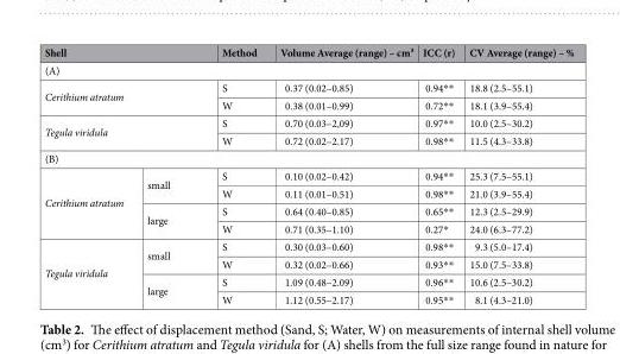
<table><thead><tr><td colspan="2">Shell</td><td>Method</td><td>Volume Average (range) – cm³</td><td>ICC (r)</td><td>CV Average (range) – %</td></tr></thead><tbody><tr><td colspan="6">(A)</td></tr><tr><td rowspan="2" colspan="2">Cerithium atratum</td><td>S</td><td>0.37 (0.02–0.85)</td><td>0.94**</td><td>18.8 (2.5–55.1)</td></tr><tr><td>W</td><td>0.38 (0.01–0.99)</td><td>0.72**</td><td>18.1 (3.9–55.4)</td></tr><tr><td rowspan="2" colspan="2">Tegula viridula</td><td>S</td><td>0.70 (0.03–2,09)</td><td>0.97**</td><td>10.0 (2.5–30.2)</td></tr><tr><td>W</td><td>0.72 (0.02–2.17)</td><td>0.98**</td><td>11.5 (4.3–33.8)</td></tr><tr><td colspan="6">(B)</td></tr><tr><td rowspan="4">Cerithium atratum</td><td rowspan="2">small</td><td>S</td><td>0.10 (0.02–0.42)</td><td>0.94**</td><td>25.3 (7.5–55.1)</td></tr><tr><td>W</td><td>0.11 (0.01–0.51)</td><td>0.98**</td><td>21.0 (3.9–55.4)</td></tr><tr><td rowspan="2">large</td><td>S</td><td>0.64 (0.40–0.85)</td><td>0.65**</td><td>12.3 (2.5–29.9)</td></tr><tr><td>W</td><td>0.71 (0.35–1.10)</td><td>0.27*</td><td>24.0 (6.3–77.2)</td></tr><tr><td rowspan="4">Tegula viridula</td><td rowspan="2">small</td><td>S</td><td>0.30 (0.03–0.60)</td><td>0.98**</td><td>9.3 (5.0–17.4)</td></tr><tr><td>W</td><td>0.32 (0.02–0.66)</td><td>0.93**</td><td>15.0 (7.5–33.8)</td></tr><tr><td rowspan="2">large</td><td>S</td><td>1.09 (0.48–2.09)</td><td>0.96**</td><td>10.6 (2.5–30.2)</td></tr><tr><td>W</td><td>1.12 (0.55–2.17)</td><td>0.95**</td><td>8.1 (4.3–21.0)</td></tr></tbody></table>